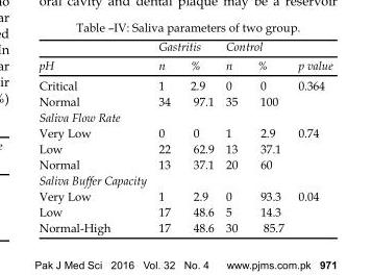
<table><thead><tr><td rowspan="2">pH</td><td colspan="2">Gastritis</td><td colspan="2">Control</td><td rowspan="2">p value</td></tr><tr><td>n</td><td>%</td><td>n</td><td>%</td></tr></thead><tbody><tr><td>Critical</td><td>1</td><td>2.9</td><td>0</td><td>0</td><td rowspan="2">0.364</td></tr><tr><td>Normal</td><td>34</td><td>97.1</td><td>35</td><td>100</td></tr><tr><td colspan="6">Saliva Flow Rate</td></tr><tr><td>Very Low</td><td>0</td><td>0</td><td>1</td><td>2.9</td><td rowspan="3">0.74</td></tr><tr><td>Low</td><td>22</td><td>62.9</td><td>13</td><td>37.1</td></tr><tr><td>Normal</td><td>13</td><td>37.1</td><td>20</td><td>60</td></tr><tr><td colspan="6">Saliva Buffer Capacity</td></tr><tr><td>Very Low</td><td>1</td><td>2.9</td><td>0</td><td>93.3</td><td rowspan="3">0.04</td></tr><tr><td>Low</td><td>17</td><td>48.6</td><td>5</td><td>14.3</td></tr><tr><td>Normal-High</td><td>17</td><td>48.6</td><td>30</td><td>85.7</td></tr></tbody></table>